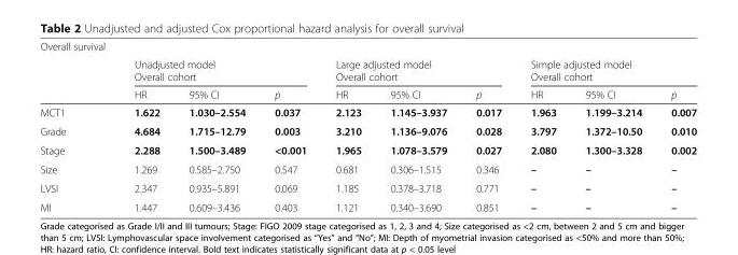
<table><thead><tr><td rowspan="3">Overall survival</td><td></td><td></td><td></td><td></td><td></td><td></td><td></td><td></td><td></td></tr><tr><td colspan="3">Unadjusted model Overall cohort</td><td colspan="3">Large adjusted model Overall cohort</td><td colspan="3">Simple adjusted model Overall cohort</td></tr><tr><td>HR</td><td>95% CI</td><td>p</td><td>HR</td><td>95% CI</td><td>p</td><td>HR</td><td>95% CI</td><td>p</td></tr></thead><tbody><tr><td>MCT1</td><td>1.622</td><td>1.030–2.554</td><td>0.037</td><td>2.123</td><td>1.145–3.937</td><td>0.017</td><td>1.963</td><td>1.199–3.214</td><td>0.007</td></tr><tr><td>Grade</td><td>4.684</td><td>1.715–12.79</td><td>0.003</td><td>3.210</td><td>1.136–9.076</td><td>0.028</td><td>3.797</td><td>1.372–10.50</td><td>0.010</td></tr><tr><td>Stage</td><td>2.288</td><td>1.500–3.489</td><td>&lt;0.001</td><td>1.965</td><td>1.078–3.579</td><td>0.027</td><td>2.080</td><td>1.300–3.328</td><td>0.002</td></tr><tr><td>Size</td><td>1.269</td><td>0.585–2.750</td><td>0.547</td><td>0.681</td><td>0.306–1.515</td><td>0.346</td><td>–</td><td>–</td><td>–</td></tr><tr><td>LVSI</td><td>2.347</td><td>0.935–5.891</td><td>0.069</td><td>1.185</td><td>0.378–3.718</td><td>0.771</td><td>–</td><td>–</td><td>–</td></tr><tr><td>MI</td><td>1.447</td><td>0.609–3.436</td><td>0.403</td><td>1.121</td><td>0.340–3.690</td><td>0.851</td><td>–</td><td>–</td><td>–</td></tr></tbody></table>